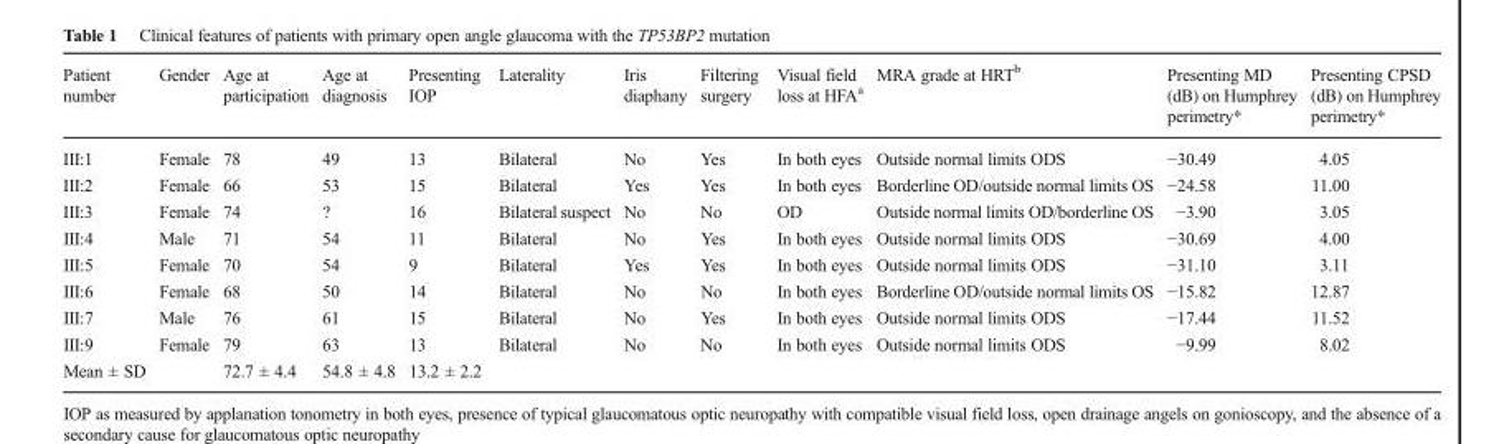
<table><thead><tr><td>Patient number</td><td>Gender</td><td>Age at participation</td><td>Age at diagnosis</td><td>Presenting IOP</td><td>Laterality</td><td>Iris diaphany</td><td>Filtering surgery</td><td>Visual field loss at HFA<sup>a</sup></td><td>MRA grade at HRT<sup>b</sup></td><td>Presenting MD (dB) on Humphrey perimetry*</td><td>Presenting CPSD (dB) on Humphrey perimetry*</td></tr></thead><tbody><tr><td>III:1</td><td>Female</td><td>78</td><td>49</td><td>13</td><td>Bilateral</td><td>No</td><td>Yes</td><td>In both eyes</td><td>Outside normal limits ODS</td><td>−30.49</td><td>4.05</td></tr><tr><td>III:2</td><td>Female</td><td>66</td><td>53</td><td>15</td><td>Bilateral</td><td>Yes</td><td>Yes</td><td>In both eyes</td><td>Borderline OD/outside normal limits OS</td><td>−24.58</td><td>11.00</td></tr><tr><td>III:3</td><td>Female</td><td>74</td><td>?</td><td>16</td><td>Bilateral suspect</td><td>No</td><td>No</td><td>OD</td><td>Outside normal limits OD/borderline OS</td><td>−3.90</td><td>3.05</td></tr><tr><td>III:4</td><td>Male</td><td>71</td><td>54</td><td>11</td><td>Bilateral</td><td>No</td><td>Yes</td><td>In both eyes</td><td>Outside normal limits ODS</td><td>−30.69</td><td>4.00</td></tr><tr><td>III:5</td><td>Female</td><td>70</td><td>54</td><td>9</td><td>Bilateral</td><td>Yes</td><td>Yes</td><td>In both eyes</td><td>Outside normal limits ODS</td><td>−31.10</td><td>3.11</td></tr><tr><td>III:6</td><td>Female</td><td>68</td><td>50</td><td>14</td><td>Bilateral</td><td>No</td><td>No</td><td>In both eyes</td><td>Borderline OD/outside normal limits OS</td><td>−15.82</td><td>12.87</td></tr><tr><td>III:7</td><td>Male</td><td>76</td><td>61</td><td>15</td><td>Bilateral</td><td>No</td><td>Yes</td><td>In both eyes</td><td>Outside normal limits ODS</td><td>−17.44</td><td>11.52</td></tr><tr><td>III:9</td><td>Female</td><td>79</td><td>63</td><td>13</td><td>Bilateral</td><td>No</td><td>No</td><td>In both eyes</td><td>Outside normal limits ODS</td><td>−9.99</td><td>8.02</td></tr><tr><td>Mean ± SD</td><td></td><td>72.7 ± 4.4</td><td>54.8 ± 4.8</td><td>13.2 ± 2.2</td><td></td><td></td><td></td><td></td><td></td><td></td><td></td></tr></tbody></table>